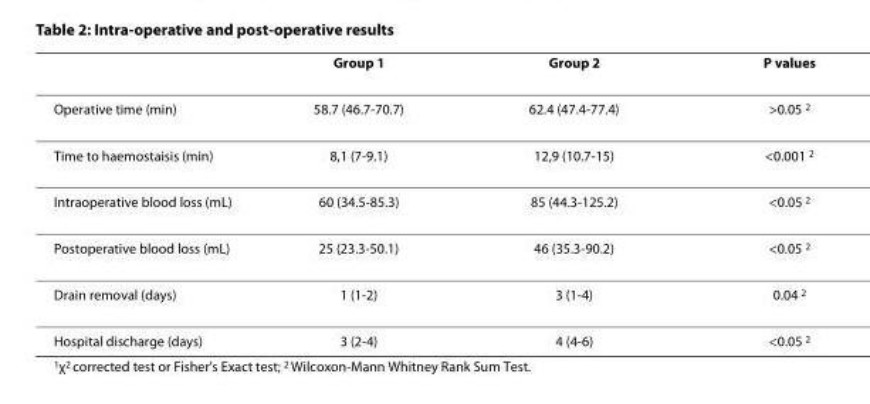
<table><thead><tr><td></td><td>Group 1</td><td>Group 2</td><td>P values</td></tr></thead><tbody><tr><td>Operative time (min)</td><td>58.7 (46.7-70.7)</td><td>62.4 (47.4-77.4)</td><td>&gt;0.05 <sup>2</sup></td></tr><tr><td>Time to haemostaisis (min)</td><td>8,1 (7-9.1)</td><td>12,9 (10.7-15)</td><td>&lt;0.001 <sup>2</sup></td></tr><tr><td>Intraoperative blood loss (mL)</td><td>60 (34.5-85.3)</td><td>85 (44.3-125.2)</td><td>&lt;0.05 <sup>2</sup></td></tr><tr><td>Postoperative blood loss (mL)</td><td>25 (23.3-50.1)</td><td>46 (35.3-90.2)</td><td>&lt;0.05 <sup>2</sup></td></tr><tr><td>Drain removal (days)</td><td>1 (1-2)</td><td>3 (1-4)</td><td>0.04 <sup>2</sup></td></tr><tr><td>Hospital discharge (days)</td><td>3 (2-4)</td><td>4 (4-6)</td><td>&lt;0.05 <sup>2</sup></td></tr></tbody></table>